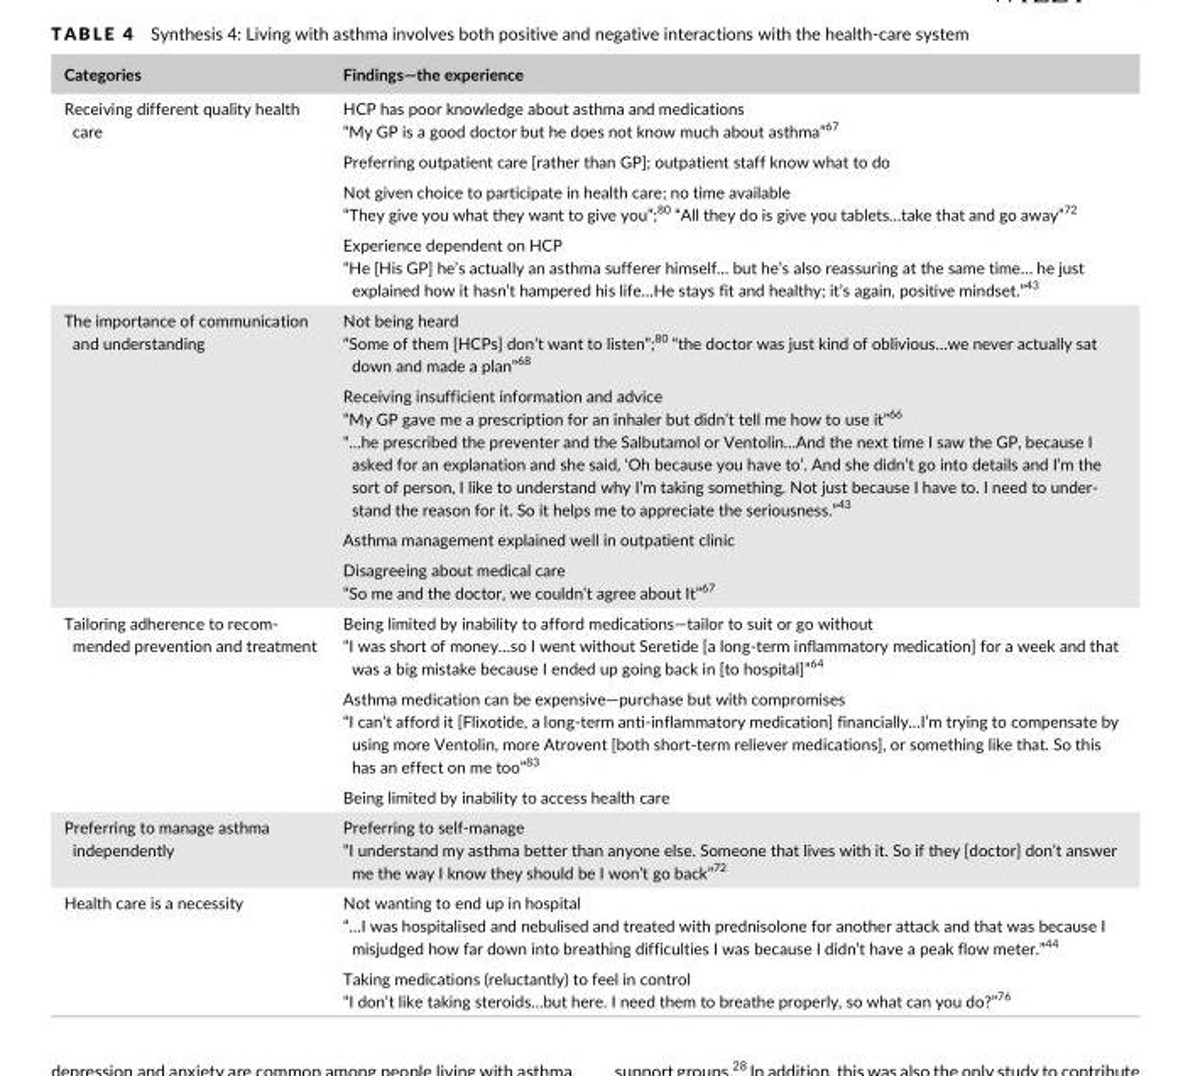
<table><thead><tr><td>Categories</td><td>Findings—the experience</td></tr></thead><tbody><tr><td rowspan="4">Receiving different quality health care</td><td>HCP has poor knowledge about asthma and medications “My GP is a good doctor but he does not know much about asthma”<sup>67</sup></td></tr><tr><td>Preferring outpatient care [rather than GP]; outpatient staff know what to do</td></tr><tr><td>Not given choice to participate in health care; no time available “They give you what they want to give you”;<sup>80</sup> “All they do is give you tablets…take that and go away”<sup>72</sup></td></tr><tr><td>Experience dependent on HCP “He [His GP] he’s actually an asthma sufferer himself… but he’s also reassuring at the same time… he just explained how it hasn’t hampered his life…He stays fit and healthy; it’s again, positive mindset.”<sup>43</sup></td></tr><tr><td rowspan="4">The importance of communication and understanding</td><td>Not being heard “Some of them [HCPs] don’t want to listen”;<sup>80</sup> “the doctor was just kind of oblivious…we never actually sat down and made a plan”<sup>68</sup></td></tr><tr><td>Receiving insufficient information and advice “My GP gave me a prescription for an inhaler but didn’t tell me how to use it”66 “…he prescribed the preventer and the Salbutamol or Ventolin…And the next time I saw the GP, because I asked for an explanation and she said, ‘Oh because you have to’. And she didn’t go into details and I’m the sort of person, I like to understand why I’m taking something. Not just because I have to. I need to under- stand the reason for it. So it helps me to appreciate the seriousness.”43</td></tr><tr><td>Asthma management explained well in outpatient clinic</td></tr><tr><td>Disagreeing about medical care “So me and the doctor, we couldn’t agree about It”<sup>67</sup></td></tr><tr><td rowspan="3">Tailoring adherence to recom- mended prevention and treatment</td><td>Being limited by inability to afford medications—tailor to suit or go without “I was short of money…so I went without Seretide [a long- term inflammatory medication] for a week and that was a big mistake because I ended up going back in [to hospital]”<sup>64</sup></td></tr><tr><td>Asthma medication can be expensive—purchase but with compromises “I can’t afford it [Flixotide, a long- term anti- inflammatory medication] financially…I’m trying to compensate by using more Ventolin, more Atrovent [both short- term reliever medications], or something like that. So this has an effect on me too”<sup>83</sup></td></tr><tr><td>Being limited by inability to access health care</td></tr><tr><td>Preferring to manage asthma independently</td><td>Preferring to self- manage “I understand my asthma better than anyone else. Someone that lives with it. So if they [doctor] don’t answer me the way I know they should be I won’t go back”<sup>72</sup></td></tr><tr><td rowspan="2">Health care is a necessity</td><td>Not wanting to end up in hospital “…I was hospitalised and nebulised and treated with prednisolone for another attack and that was because I misjudged how far down into breathing difficulties I was because I didn’t have a peak flow meter.”<sup>44</sup></td></tr><tr><td>Taking medications (reluctantly) to feel in control “I don’t like taking steroids…but here. I need them to breathe properly, so what can you do?”<sup>76</sup></td></tr></tbody></table>